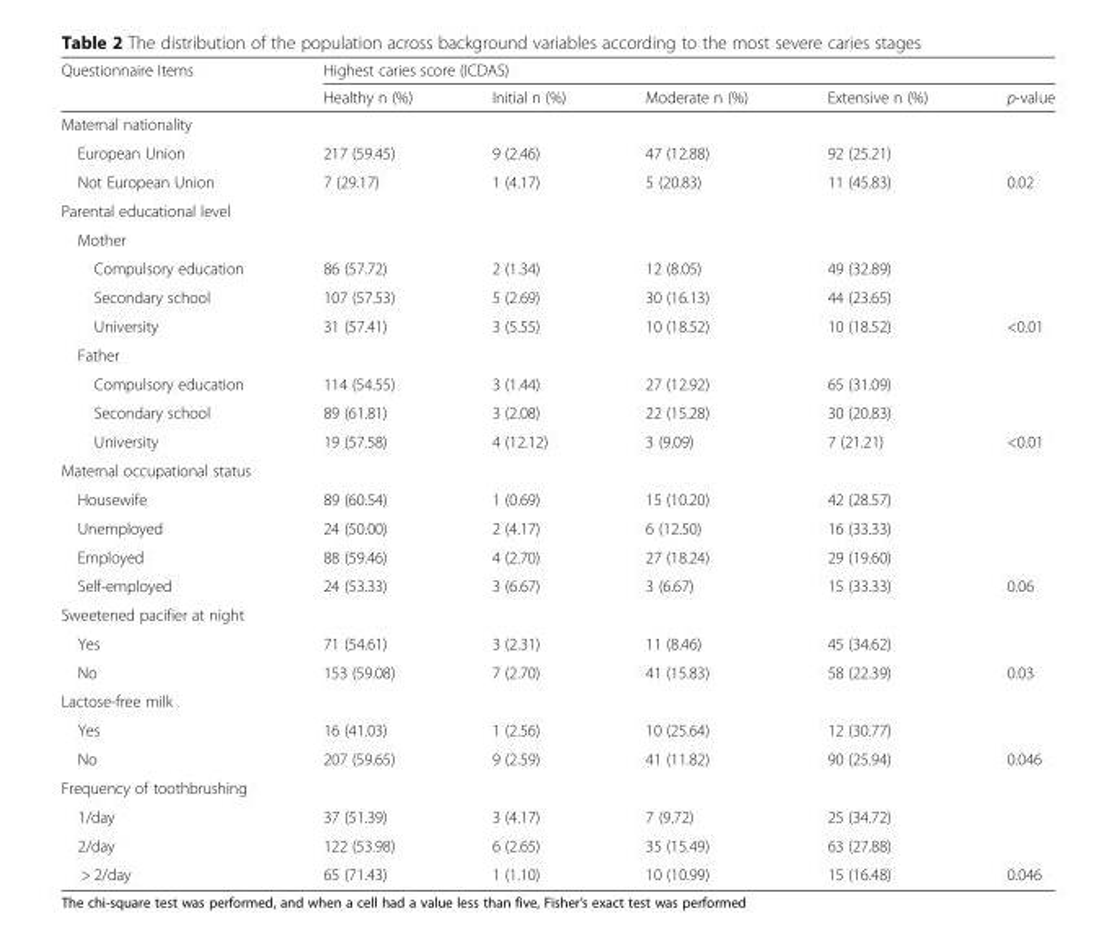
<table><thead><tr><td rowspan="2">Questionnaire Items</td><td colspan="5">Highest caries score (ICDAS)</td></tr><tr><td>Healthy n (%)</td><td>Initial n (%)</td><td>Moderate n (%)</td><td>Extensive n (%)</td><td>p-value</td></tr></thead><tbody><tr><td colspan="6">Maternal nationality</td></tr><tr><td>European Union</td><td>217 (59.45)</td><td>9 (2.46)</td><td>47 (12.88)</td><td>92 (25.21)</td><td></td></tr><tr><td>Not European Union</td><td>7 (29.17)</td><td>1 (4.17)</td><td>5 (20.83)</td><td>11 (45.83)</td><td>0.02</td></tr><tr><td colspan="6">Parental educational level</td></tr><tr><td colspan="6">Mother</td></tr><tr><td>Compulsory education</td><td>86 (57.72)</td><td>2 (1.34)</td><td>12 (8.05)</td><td>49 (32.89)</td><td></td></tr><tr><td>Secondary school</td><td>107 (57.53)</td><td>5 (2.69)</td><td>30 (16.13)</td><td>44 (23.65)</td><td></td></tr><tr><td>University</td><td>31 (57.41)</td><td>3 (5.55)</td><td>10 (18.52)</td><td>10 (18.52)</td><td>&lt;0.01</td></tr><tr><td colspan="6">Father</td></tr><tr><td>Compulsory education</td><td>114 (54.55)</td><td>3 (1.44)</td><td>27 (12.92)</td><td>65 (31.09)</td><td></td></tr><tr><td>Secondary school</td><td>89 (61.81)</td><td>3 (2.08)</td><td>22 (15.28)</td><td>30 (20.83)</td><td></td></tr><tr><td>University</td><td>19 (57.58)</td><td>4 (12.12)</td><td>3 (9.09)</td><td>7 (21.21)</td><td>&lt;0.01</td></tr><tr><td colspan="6">Maternal occupational status</td></tr><tr><td>Housewife</td><td>89 (60.54)</td><td>1 (0.69)</td><td>15 (10.20)</td><td>42 (28.57)</td><td></td></tr><tr><td>Unemployed</td><td>24 (50.00)</td><td>2 (4.17)</td><td>6 (12.50)</td><td>16 (33.33)</td><td></td></tr><tr><td>Employed</td><td>88 (59.46)</td><td>4 (2.70)</td><td>27 (18.24)</td><td>29 (19.60)</td><td></td></tr><tr><td>Self-employed</td><td>24 (53.33)</td><td>3 (6.67)</td><td>3 (6.67)</td><td>15 (33.33)</td><td>0.06</td></tr><tr><td colspan="6">Sweetened pacifier at night</td></tr><tr><td>Yes</td><td>71 (54.61)</td><td>3 (2.31)</td><td>11 (8.46)</td><td>45 (34.62)</td><td></td></tr><tr><td>No</td><td>153 (59.08)</td><td>7 (2.70)</td><td>41 (15.83)</td><td>58 (22.39)</td><td>0.03</td></tr><tr><td colspan="6">Lactose-free milk</td></tr><tr><td>Yes</td><td>16 (41.03)</td><td>1 (2.56)</td><td>10 (25.64)</td><td>12 (30.77)</td><td></td></tr><tr><td>No</td><td>207 (59.65)</td><td>9 (2.59)</td><td>41 (11.82)</td><td>90 (25.94)</td><td>0.046</td></tr><tr><td colspan="6">Frequency of toothbrushing</td></tr><tr><td>1/day</td><td>37 (51.39)</td><td>3 (4.17)</td><td>7 (9.72)</td><td>25 (34.72)</td><td></td></tr><tr><td>2/day</td><td>122 (53.98)</td><td>6 (2.65)</td><td>35 (15.49)</td><td>63 (27.88)</td><td></td></tr><tr><td>&gt; 2/day</td><td>65 (71.43)</td><td>1 (1.10)</td><td>10 (10.99)</td><td>15 (16.48)</td><td>0.046</td></tr></tbody></table>